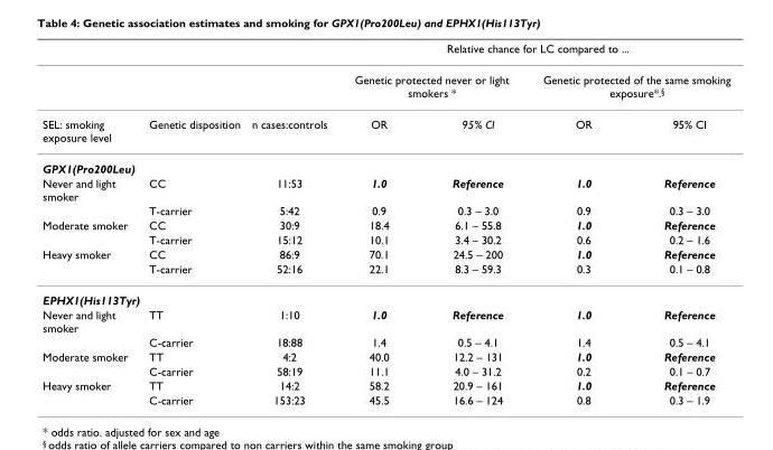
<table><thead><tr><td rowspan="3">SEL: smoking exposure level</td><td rowspan="3">Genetic disposition</td><td rowspan="3">n cases:controls</td><td colspan="4">Relative chance for LC compared to ...</td></tr><tr><td colspan="2">Genetic protected never or light smokers *</td><td colspan="2">Genetic protected of the same smoking exposure*.<sup>§</sup></td></tr><tr><td>OR</td><td>95% CI</td><td>OR</td><td>95% CI</td></tr></thead><tbody><tr><td colspan="7">GPX1(Pro200Leu)</td></tr><tr><td rowspan="2">Never and light smoker</td><td>CC</td><td>11:53</td><td>1.0</td><td>Reference</td><td>1.0</td><td>Reference</td></tr><tr><td>T-carrier</td><td>5:42</td><td>0.9</td><td>0.3 – 3.0</td><td>0.9</td><td>0.3 – 3.0</td></tr><tr><td rowspan="2">Moderate smoker</td><td>CC</td><td>30:9</td><td>18.4</td><td>6.1 – 55.8</td><td>1.0</td><td>Reference</td></tr><tr><td>T-carrier</td><td>15:12</td><td>10.1</td><td>3.4 – 30.2</td><td>0.6</td><td>0.2 – 1.6</td></tr><tr><td rowspan="2">Heavy smoker</td><td>CC</td><td>86:9</td><td>70.1</td><td>24.5 – 200</td><td>1.0</td><td>Reference</td></tr><tr><td>T-carrier</td><td>52:16</td><td>22.1</td><td>8.3 – 59.3</td><td>0.3</td><td>0.1 – 0.8</td></tr><tr><td colspan="7">EPHX1(His113Tyr)</td></tr><tr><td rowspan="2">Never and light smoker</td><td>TT</td><td>1:10</td><td>1.0</td><td>Reference</td><td>1.0</td><td>Reference</td></tr><tr><td>C-carrier</td><td>18:88</td><td>1.4</td><td>0.5 – 4.1</td><td>1.4</td><td>0.5 – 4.1</td></tr><tr><td rowspan="2">Moderate smoker</td><td>TT</td><td>4:2</td><td>40.0</td><td>12.2 – 131</td><td>1.0</td><td>Reference</td></tr><tr><td>C-carrier</td><td>58:19</td><td>11.1</td><td>4.0 – 31.2</td><td>0.2</td><td>0.1 – 0.7</td></tr><tr><td rowspan="2">Heavy smoker</td><td>TT</td><td>14:2</td><td>58.2</td><td>20.9 – 161</td><td>1.0</td><td>Reference</td></tr><tr><td>C-carrier</td><td>153:23</td><td>45.5</td><td>16.6 – 124</td><td>0.8</td><td>0.3 – 1.9</td></tr></tbody></table>